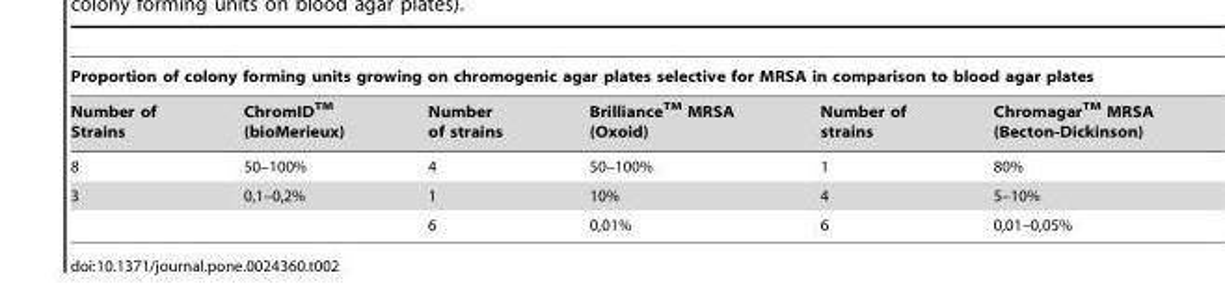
<table><thead><tr><td colspan="6">Proportion of colony forming units growing on chromogenic agar plates selective for MRSA in comparison to blood agar plates</td></tr><tr><td>Number of Strains</td><td>ChromIDTM (bioMerieux)</td><td>Number of strains</td><td>BrillianceTM MRSA (Oxoid)</td><td>Number of strains</td><td>ChromagarTM MRSA (Becton-Dickinson)</td></tr></thead><tbody><tr><td>8</td><td>50–100%</td><td>4</td><td>50–100%</td><td>1</td><td>80%</td></tr><tr><td rowspan="2">3</td><td>0,1–0,2%</td><td>1</td><td>10%</td><td>4</td><td>5–10%</td></tr><tr><td></td><td>6</td><td>0,01%</td><td>6</td><td>0,01–0,05%</td></tr></tbody></table>